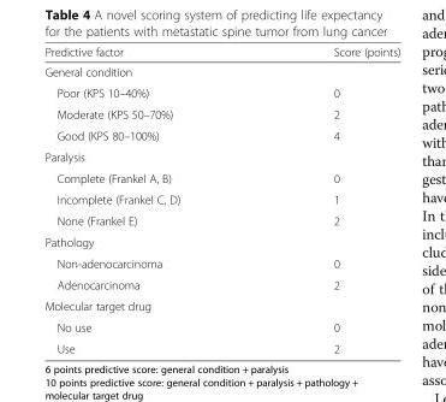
<table><thead><tr><td>Predictive factor</td><td>Score (points)</td></tr></thead><tbody><tr><td colspan="2">General condition</td></tr><tr><td>Poor (KPS 10–40%)</td><td>0</td></tr><tr><td>Moderate (KPS 50–70%)</td><td>2</td></tr><tr><td>Good (KPS 80–100%)</td><td>4</td></tr><tr><td colspan="2">Paralysis</td></tr><tr><td>Complete (Frankel A, B)</td><td>0</td></tr><tr><td>Incomplete (Frankel C, D)</td><td>1</td></tr><tr><td>None (Frankel E)</td><td>2</td></tr><tr><td colspan="2">Pathology</td></tr><tr><td>Non-adenocarcinoma</td><td>0</td></tr><tr><td>Adenocarcinoma</td><td>2</td></tr><tr><td colspan="2">Molecular target drug</td></tr><tr><td>No use</td><td>0</td></tr><tr><td>Use</td><td>2</td></tr></tbody></table>